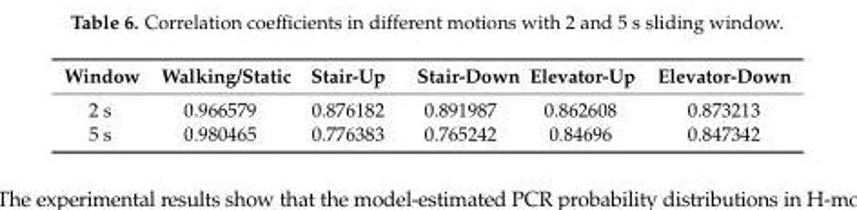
<table><thead><tr><td>Window</td><td>Walking/Static</td><td>Stair-Up</td><td>Stair-Down</td><td>Elevator-Up</td><td>Elevator-Down</td></tr></thead><tbody><tr><td>2 s</td><td>0.966579</td><td>0.876182</td><td>0.891987</td><td>0.862608</td><td>0.873213</td></tr><tr><td>5 s</td><td>0.980465</td><td>0.776383</td><td>0.765242</td><td>0.84696</td><td>0.847342</td></tr></tbody></table>